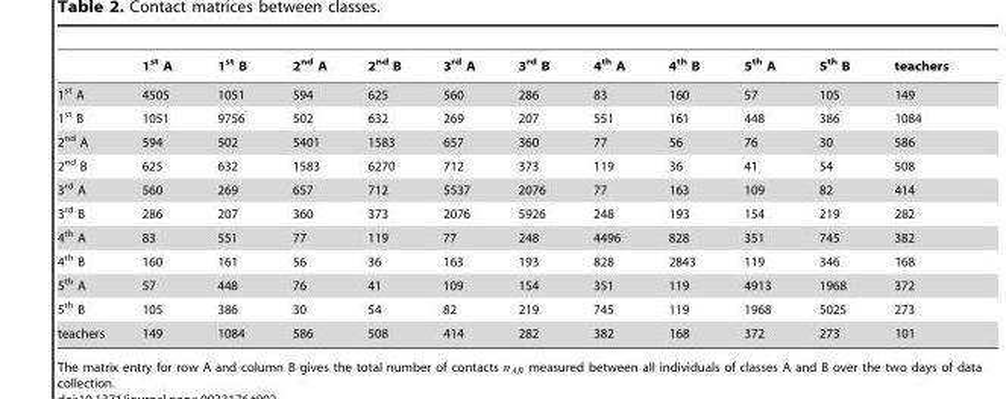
<table><thead><tr><td></td><td>1<sup>st</sup> A</td><td>1<sup>st</sup> B</td><td>2<sup>nd</sup> A</td><td>2<sup>nd</sup> B</td><td>3<sup>rd</sup> A</td><td>3<sup>rd</sup> B</td><td>4<sup>th</sup> A</td><td>4<sup>th</sup> B</td><td>5<sup>th</sup> A</td><td>5<sup>th</sup> B</td><td>teachers</td></tr></thead><tbody><tr><td>1<sup>st</sup> A</td><td>4505</td><td>1051</td><td>594</td><td>625</td><td>560</td><td>286</td><td>83</td><td>160</td><td>57</td><td>105</td><td>149</td></tr><tr><td>1<sup>st</sup> B</td><td>1051</td><td>9756</td><td>502</td><td>632</td><td>269</td><td>207</td><td>551</td><td>161</td><td>448</td><td>386</td><td>1084</td></tr><tr><td>2<sup>nd</sup> A</td><td>594</td><td>502</td><td>5401</td><td>1583</td><td>657</td><td>360</td><td>77</td><td>56</td><td>76</td><td>30</td><td>586</td></tr><tr><td>2<sup>nd</sup> B</td><td>625</td><td>632</td><td>1583</td><td>6270</td><td>712</td><td>373</td><td>119</td><td>36</td><td>41</td><td>54</td><td>508</td></tr><tr><td>3<sup>rd</sup> A</td><td>560</td><td>269</td><td>657</td><td>712</td><td>5537</td><td>2076</td><td>77</td><td>163</td><td>109</td><td>82</td><td>414</td></tr><tr><td>3<sup>rd</sup> B</td><td>286</td><td>207</td><td>360</td><td>373</td><td>2076</td><td>5926</td><td>248</td><td>193</td><td>154</td><td>219</td><td>282</td></tr><tr><td>4<sup>th</sup> A</td><td>83</td><td>551</td><td>77</td><td>119</td><td>77</td><td>248</td><td>4496</td><td>828</td><td>351</td><td>745</td><td>382</td></tr><tr><td>4<sup>th</sup> B</td><td>160</td><td>161</td><td>56</td><td>36</td><td>163</td><td>193</td><td>828</td><td>2843</td><td>119</td><td>346</td><td>168</td></tr><tr><td>5<sup>th</sup> A</td><td>57</td><td>448</td><td>76</td><td>41</td><td>109</td><td>154</td><td>351</td><td>119</td><td>4913</td><td>1968</td><td>372</td></tr><tr><td>5<sup>th</sup> B</td><td>105</td><td>386</td><td>30</td><td>54</td><td>82</td><td>219</td><td>745</td><td>119</td><td>1968</td><td>5025</td><td>273</td></tr><tr><td>teachers</td><td>149</td><td>1084</td><td>586</td><td>508</td><td>414</td><td>282</td><td>382</td><td>168</td><td>372</td><td>273</td><td>101</td></tr></tbody></table>